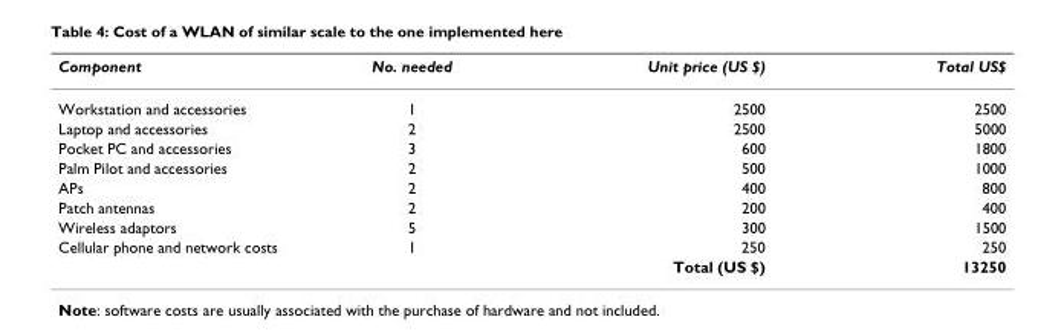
<table><thead><tr><td>Component</td><td>No. needed</td><td>Unit price (US $)</td><td>Total US$</td></tr></thead><tbody><tr><td>Workstation and accessories</td><td>1</td><td>2500</td><td>2500</td></tr><tr><td>Laptop and accessories</td><td>2</td><td>2500</td><td>5000</td></tr><tr><td>Pocket PC and accessories</td><td>3</td><td>600</td><td>1800</td></tr><tr><td>Palm Pilot and accessories</td><td>2</td><td>500</td><td>1000</td></tr><tr><td>APs</td><td>2</td><td>400</td><td>800</td></tr><tr><td>Patch antennas</td><td>2</td><td>200</td><td>400</td></tr><tr><td>Wireless adaptors</td><td>5</td><td>300</td><td>1500</td></tr><tr><td rowspan="2">Cellular phone and network costs</td><td>1</td><td>250</td><td>250</td></tr><tr><td></td><td>Total (US $)</td><td>13250</td></tr></tbody></table>